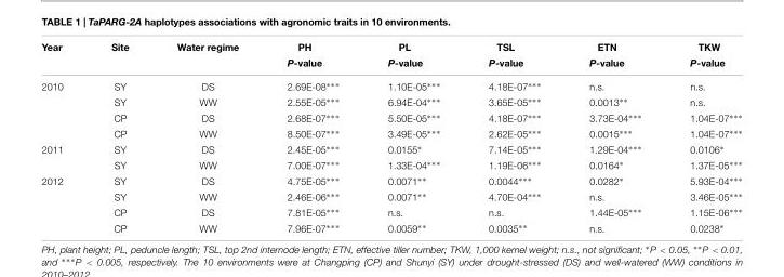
<table><thead><tr><td rowspan="2">Year</td><td rowspan="2">Site</td><td rowspan="2">Water regime</td><td rowspan="2">PH P-value</td><td rowspan="2">PL P-value</td><td rowspan="2">TSL P-value</td><td rowspan="2">ETN P-value</td><td rowspan="2">TKW P-value</td></tr><tr></tr></thead><tbody><tr><td rowspan="4">2010</td><td>SY</td><td>DS</td><td>2.69E-08∗∗∗</td><td>1.10E-05∗∗∗</td><td>4.18E-07∗∗∗</td><td>n.s.</td><td>n.s.</td></tr><tr><td>SY</td><td>WW</td><td>2.55E-05∗∗∗</td><td>6.94E-04∗∗∗</td><td>3.65E-05∗∗∗</td><td>0.0013∗∗</td><td>n.s.</td></tr><tr><td>CP</td><td>DS</td><td>2.68E-07∗∗∗</td><td>5.50E-05∗∗∗</td><td>4.18E-07∗∗∗</td><td>3.73E-04∗∗∗</td><td>1.04E-07∗∗∗</td></tr><tr><td>CP</td><td>WW</td><td>8.50E-07∗∗∗</td><td>3.49E-05∗∗∗</td><td>2.62E-05∗∗∗</td><td>0.0015∗∗∗</td><td>1.04E-07∗∗∗</td></tr><tr><td rowspan="2">2011</td><td>SY</td><td>DS</td><td>2.45E-05∗∗∗</td><td>0.0155∗</td><td>7.14E-05∗∗∗</td><td>1.29E-04∗∗∗</td><td>0.0106∗</td></tr><tr><td>SY</td><td>WW</td><td>7.00E-07∗∗∗</td><td>1.33E-04∗∗∗</td><td>1.19E-06∗∗∗</td><td>0.0164∗</td><td>1.37E-05∗∗∗</td></tr><tr><td rowspan="4">2012</td><td>SY</td><td>DS</td><td>4.75E-05∗∗∗</td><td>0.0071∗∗</td><td>0.0044∗∗∗</td><td>0.0282∗</td><td>5.93E-04∗∗∗</td></tr><tr><td>SY</td><td>WW</td><td>2.46E-06∗∗∗</td><td>0.0071∗∗</td><td>4.70E-04∗∗∗</td><td>n.s.</td><td>3.46E-05∗∗∗</td></tr><tr><td>CP</td><td>DS</td><td>7.81E-05∗∗∗</td><td>n.s.</td><td>n.s.</td><td>1.44E-05∗∗∗</td><td>1.15E-06∗∗∗</td></tr><tr><td>CP</td><td>WW</td><td>7.96E-07∗∗∗</td><td>0.0059∗∗</td><td>0.0035∗∗</td><td>n.s.</td><td>0.0238∗</td></tr></tbody></table>